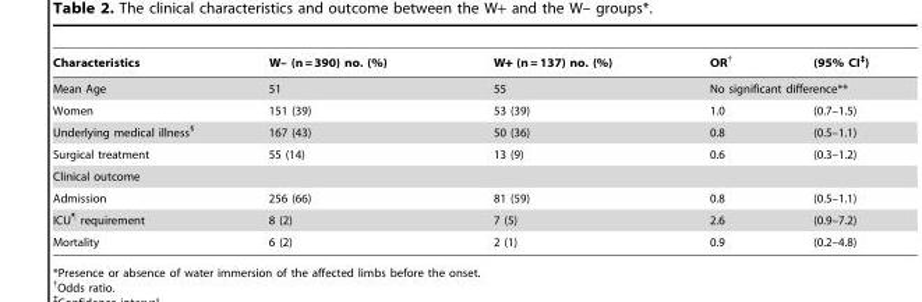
<table><thead><tr><td>Characteristics</td><td>W– (n = 390) no. (%)</td><td>W+ (n = 137) no. (%)</td><td>OR†</td><td>(95% CI‡)</td></tr></thead><tbody><tr><td>Mean Age</td><td>51</td><td>55</td><td colspan="2">No significant difference**</td></tr><tr><td>Women</td><td>151 (39)</td><td>53 (39)</td><td>1.0</td><td>(0.7–1.5)</td></tr><tr><td>Underlying medical illness§</td><td>167 (43)</td><td>50 (36)</td><td>0.8</td><td>(0.5–1.1)</td></tr><tr><td>Surgical treatment</td><td>55 (14)</td><td>13 (9)</td><td>0.6</td><td>(0.3–1.2)</td></tr><tr><td colspan="5">Clinical outcome</td></tr><tr><td>Admission</td><td>256 (66)</td><td>81 (59)</td><td>0.8</td><td>(0.5–1.1)</td></tr><tr><td>ICU¶ requirement</td><td>8 (2)</td><td>7 (5)</td><td>2.6</td><td>(0.9–7.2)</td></tr><tr><td>Mortality</td><td>6 (2)</td><td>2 (1)</td><td>0.9</td><td>(0.2–4.8)</td></tr></tbody></table>